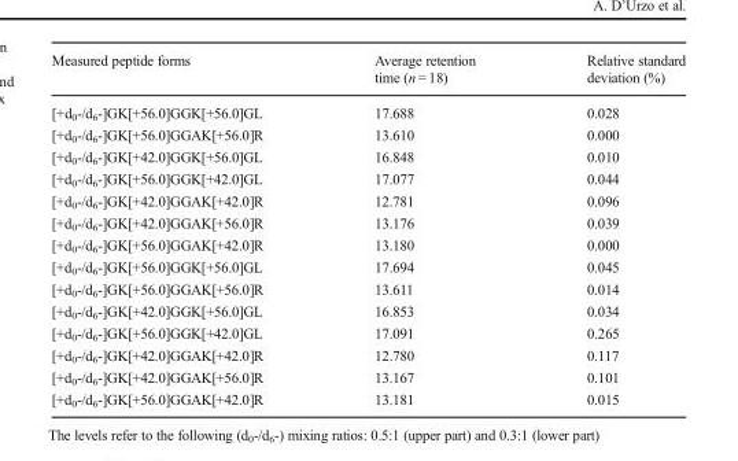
<table><thead><tr><td>Measured peptide forms</td><td>Average retention time (n = 18)</td><td>Relative standard deviation (%)</td></tr></thead><tbody><tr><td>[+d<sub>0</sub>-/d<sub>6</sub>-]GK[+56.0]GGK[+56.0]GL</td><td>17.688</td><td>0.028</td></tr><tr><td>[+d<sub>0</sub>-/d<sub>6</sub>-]GK[+56.0]GGAK[+56.0]R</td><td>13.610</td><td>0.000</td></tr><tr><td>[+d<sub>0</sub>-/d<sub>6</sub>-]GK[+42.0]GGK[+56.0]GL</td><td>16.848</td><td>0.010</td></tr><tr><td>[+d<sub>0</sub>-/d<sub>6</sub>-]GK[+56.0]GGK[+42.0]GL</td><td>17.077</td><td>0.044</td></tr><tr><td>[+d<sub>0</sub>-/d<sub>6</sub>-]GK[+42.0]GGAK[+42.0]R</td><td>12.781</td><td>0.096</td></tr><tr><td>[+d<sub>0</sub>-/d<sub>6</sub>-]GK[+42.0]GGAK[+56.0]R</td><td>13.176</td><td>0.039</td></tr><tr><td>[+d<sub>0</sub>-/d<sub>6</sub>-]GK[+56.0]GGAK[+42.0]R</td><td>13.180</td><td>0.000</td></tr><tr><td>[+d<sub>0</sub>-/d<sub>6</sub>-]GK[+56.0]GGK[+56.0]GL</td><td>17.694</td><td>0.045</td></tr><tr><td>[+d<sub>0</sub>-/d<sub>6</sub>-]GK[+56.0]GGAK[+56.0]R</td><td>13.611</td><td>0.014</td></tr><tr><td>[+d<sub>0</sub>-/d<sub>6</sub>-]GK[+42.0]GGK[+56.0]GL</td><td>16.853</td><td>0.034</td></tr><tr><td>[+d<sub>0</sub>-/d<sub>6</sub>-]GK[+56.0]GGK[+42.0]GL</td><td>17.091</td><td>0.265</td></tr><tr><td>[+d<sub>0</sub>-/d<sub>6</sub>-]GK[+42.0]GGAK[+42.0]R</td><td>12.780</td><td>0.117</td></tr><tr><td>[+d<sub>0</sub>-/d<sub>6</sub>-]GK[+42.0]GGAK[+56.0]R</td><td>13.167</td><td>0.101</td></tr><tr><td>[+d<sub>0</sub>-/d<sub>6</sub>-]GK[+56.0]GGAK[+42.0]R</td><td>13.181</td><td>0.015</td></tr></tbody></table>